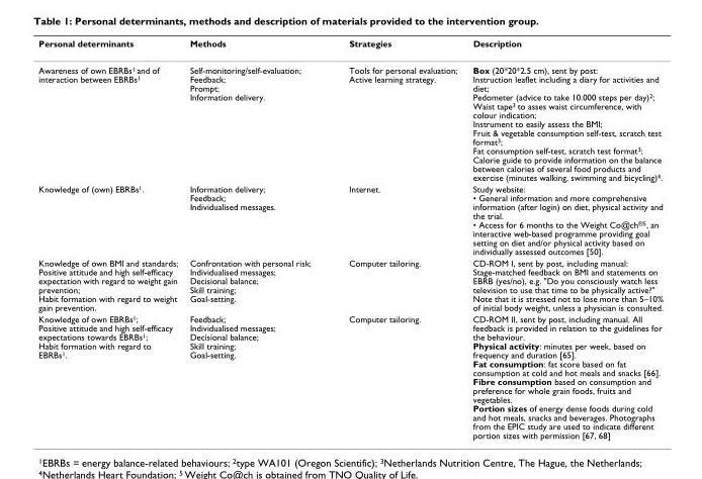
<table><thead><tr><td>Personal determinants</td><td>Methods</td><td>Strategies</td><td>Description</td></tr></thead><tbody><tr><td>Awareness of own EBRBs1 and of interaction between EBRBs1</td><td>Self-monitoring/self-evaluation; Feedback; Prompt; Information delivery.</td><td>Tools for personal evaluation; Active learning strategy.</td><td>Box (20*20*2.5 cm), sent by post: Instruction leaflet including a diary for activities and diet; Pedometer (advice to take 10.000 steps per day)2; Waist tape3 to asses waist circumference, with colour indication; Instrument to easily assess the BMI; Fruit &amp; vegetable consumption self-test, scratch test format3; Fat consumption self-test, scratch test format3; Calorie guide to provide information on the balance between calories of several food products and exercise (minutes walking, swimming and bicycling)4.</td></tr><tr><td>Knowledge of (own) EBRBs1.</td><td>Information delivery; Feedback; Individualised messages.</td><td>Internet.</td><td>Study website: • General information and more comprehensive information (after login) on diet, physical activity and the trial. • Access for 6 months to the Weight Co@ch®5, an interactive web-based programme providing goal setting on diet and/or physical activity based on individually assessed outcomes [50].</td></tr><tr><td>Knowledge of own BMI and standards; Positive attitude and high self-efficacy expectation with regard to weight gain prevention; Habit formation with regard to weight gain prevention.</td><td>Confrontation with personal risk; Individualised messages; Decisional balance; Skill training; Goal-setting.</td><td>Computer tailoring.</td><td>CD-ROM I, sent by post, including manual: Stage-matched feedback on BMI and statements on EBRB (yes/no), e.g. &quot;Do you consciously watch less television to use that time to be physically active?&quot; Note that it is stressed not to lose more than 5–10% of initial body weight, unless a physician is consulted.</td></tr><tr><td>Knowledge of own EBRBs1; Positive attitude and high self-efficacy expectations towards EBRBs1; Habit formation with regard to EBRBs1.</td><td>Feedback; Individualised messages; Decisional balance; Skill training; Goal-setting.</td><td>Computer tailoring.</td><td>CD-ROM II, sent by post, including manual. All feedback is provided in relation to the guidelines for the behaviour. Physical activity: minutes per week, based on frequency and duration [65]. Fat consumption: fat score based on fat consumption at cold and hot meals and snacks [66]. Fibre consumption based on consumption and preference for whole grain foods, fruits and vegetables. Portion sizes of energy dense foods during cold and hot meals, snacks and beverages. Photographs from the EPIC study are used to indicate different portion sizes with permission [67, 68]</td></tr></tbody></table>